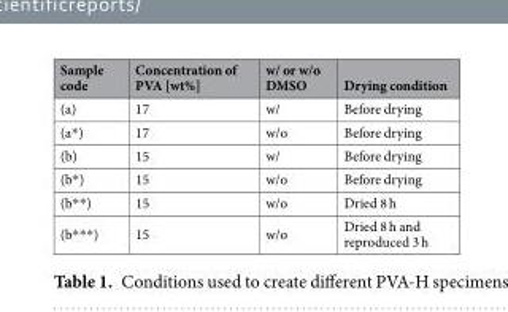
<table><thead><tr><td>Sample code</td><td>Concentration of PVA [wt%]</td><td>w/ or w/o DMSO</td><td>Drying condition</td></tr></thead><tbody><tr><td>(a)</td><td>17</td><td>w/</td><td>Before drying</td></tr><tr><td>(a*)</td><td>17</td><td>w/o</td><td>Before drying</td></tr><tr><td>(b)</td><td>15</td><td>w/</td><td>Before drying</td></tr><tr><td>(b*)</td><td>15</td><td>w/o</td><td>Before drying</td></tr><tr><td>(b**)</td><td>15</td><td>w/o</td><td>Dried 8 h</td></tr><tr><td>(b***)</td><td>15</td><td>w/o</td><td>Dried 8 h and reproduced 3 h</td></tr></tbody></table>